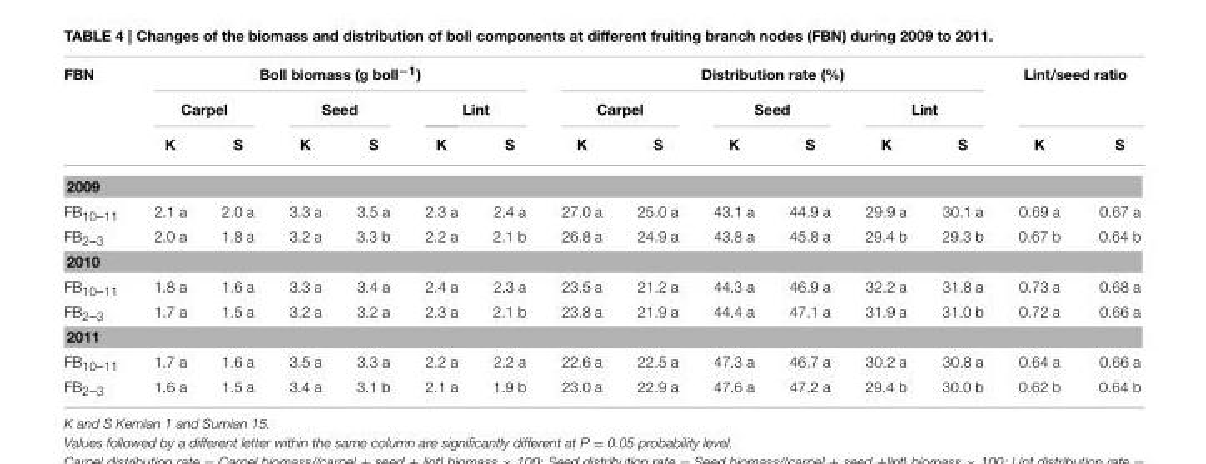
<table><thead><tr><td rowspan="3">FBN</td><td colspan="6">Boll biomass (g boll<sup>−1</sup>)</td><td colspan="6">Distribution rate (%)</td><td colspan="2">Lint/seed ratio</td></tr><tr><td colspan="2">Carpel</td><td colspan="2">Seed</td><td colspan="2">Lint</td><td colspan="2">Carpel</td><td colspan="2">Seed</td><td colspan="2">Lint</td><td rowspan="2">K</td><td rowspan="2">S</td></tr><tr><td>K</td><td>S</td><td>K</td><td>S</td><td>K</td><td>S</td><td>K</td><td>S</td><td>K</td><td>S</td><td>K</td><td>S</td></tr></thead><tbody><tr><td colspan="15">2009</td></tr><tr><td>FB<sub>10–11</sub></td><td>2.1 a</td><td>2.0 a</td><td>3.3 a</td><td>3.5 a</td><td>2.3 a</td><td>2.4 a</td><td>27.0 a</td><td>25.0 a</td><td>43.1 a</td><td>44.9 a</td><td>29.9 a</td><td>30.1 a</td><td>0.69 a</td><td>0.67 a</td></tr><tr><td>FB<sub>2–3</sub></td><td>2.0 a</td><td>1.8 a</td><td>3.2 a</td><td>3.3 b</td><td>2.2 a</td><td>2.1 b</td><td>26.8 a</td><td>24.9 a</td><td>43.8 a</td><td>45.8 a</td><td>29.4 b</td><td>29.3 b</td><td>0.67 b</td><td>0.64 b</td></tr><tr><td colspan="15">2010</td></tr><tr><td>FB<sub>10–11</sub></td><td>1.8 a</td><td>1.6 a</td><td>3.3 a</td><td>3.4 a</td><td>2.4 a</td><td>2.3 a</td><td>23.5 a</td><td>21.2 a</td><td>44.3 a</td><td>46.9 a</td><td>32.2 a</td><td>31.8 a</td><td>0.73 a</td><td>0.68 a</td></tr><tr><td>FB<sub>2–3</sub></td><td>1.7 a</td><td>1.5 a</td><td>3.2 a</td><td>3.2 a</td><td>2.3 a</td><td>2.1 b</td><td>23.8 a</td><td>21.9 a</td><td>44.4 a</td><td>47.1 a</td><td>31.9 a</td><td>31.0 b</td><td>0.72 a</td><td>0.66 a</td></tr><tr><td colspan="15">2011</td></tr><tr><td>FB<sub>10–11</sub></td><td>1.7 a</td><td>1.6 a</td><td>3.5 a</td><td>3.3 a</td><td>2.2 a</td><td>2.2 a</td><td>22.6 a</td><td>22.5 a</td><td>47.3 a</td><td>46.7 a</td><td>30.2 a</td><td>30.8 a</td><td>0.64 a</td><td>0.66 a</td></tr><tr><td>FB<sub>2–3</sub></td><td>1.6 a</td><td>1.5 a</td><td>3.4 a</td><td>3.1 b</td><td>2.1 a</td><td>1.9 b</td><td>23.0 a</td><td>22.9 a</td><td>47.6 a</td><td>47.2 a</td><td>29.4 b</td><td>30.0 b</td><td>0.62 b</td><td>0.64 b</td></tr></tbody></table>